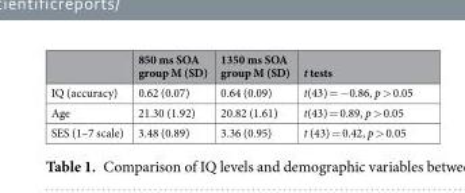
<table><thead><tr><td></td><td>850 ms SOA group M (SD)</td><td>1350 ms SOA group M (SD)</td><td>t tests</td></tr></thead><tbody><tr><td>IQ (accuracy)</td><td>0.62 (0.07)</td><td>0.64 (0.09)</td><td>t(43) = −0.86, p &gt; 0.05</td></tr><tr><td>Age</td><td>21.30 (1.92)</td><td>20.82 (1.61)</td><td>t(43) = 0.89, p &gt; 0.05</td></tr><tr><td>SES (1–7 scale)</td><td>3.48 (0.89)</td><td>3.36 (0.95)</td><td>t (43) = 0.42, p &gt; 0.05</td></tr></tbody></table>